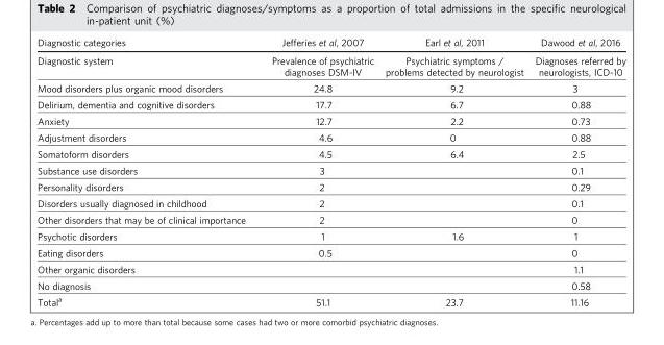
<table><thead><tr><td>Diagnostic categories</td><td>Jefferies et al, 2007</td><td>Earl et al, 2011</td><td>Dawood et al, 2016</td></tr></thead><tbody><tr><td>Diagnostic system</td><td>Prevalence of psychiatric diagnoses DSM‐IV</td><td>Psychiatric symptoms / problems detected by neurologist</td><td>Diagnoses referred by neurologists, ICD-10</td></tr><tr><td>Mood disorders plus organic mood disorders</td><td>24.8</td><td>9.2</td><td>3</td></tr><tr><td>Delirium, dementia and cognitive disorders</td><td>17.7</td><td>6.7</td><td>0.88</td></tr><tr><td>Anxiety</td><td>12.7</td><td>2.2</td><td>0.73</td></tr><tr><td>Adjustment disorders</td><td>4.6</td><td>0</td><td>0.88</td></tr><tr><td>Somatoform disorders</td><td>4.5</td><td>6.4</td><td>2.5</td></tr><tr><td>Substance use disorders</td><td>3</td><td></td><td>0.1</td></tr><tr><td>Personality disorders</td><td>2</td><td></td><td>0.29</td></tr><tr><td>Disorders usually diagnosed in childhood</td><td>2</td><td></td><td>0.1</td></tr><tr><td>Other disorders that may be of clinical importance</td><td>2</td><td></td><td>0</td></tr><tr><td>Psychotic disorders</td><td>1</td><td>1.6</td><td>1</td></tr><tr><td>Eating disorders</td><td>0.5</td><td></td><td>0</td></tr><tr><td>Other organic disorders</td><td></td><td></td><td>1.1</td></tr><tr><td>No diagnosis</td><td></td><td></td><td>0.58</td></tr><tr><td>Total<sup>a</sup></td><td>51.1</td><td>23.7</td><td>11.16</td></tr></tbody></table>